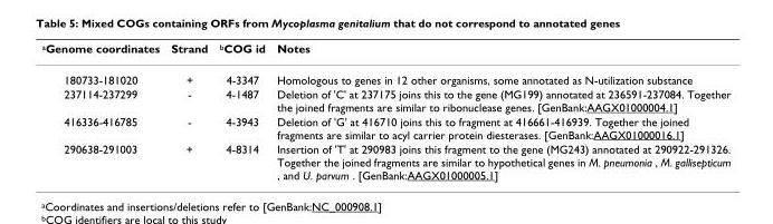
<table><thead><tr><td>aGenome coordinates</td><td>Strand</td><td>bCOG id</td><td>Notes</td></tr></thead><tbody><tr><td>180733-181020</td><td>+</td><td>4-3347</td><td>Homologous to genes in 12 other organisms, some annotated as N-utilization substance</td></tr><tr><td>237114-237299</td><td>-</td><td>4-1487</td><td>Deletion of &#x27;C&#x27; at 237175 joins this to the gene (MG199) annotated at 236591-237084. Together the joined fragments are similar to ribonuclease genes. [GenBank:AAGX01000004.1]</td></tr><tr><td>416336-416785</td><td>-</td><td>4-3943</td><td>Deletion of &#x27;G&#x27; at 416710 joins this to fragment at 416661-416939. Together the joined fragments are similar to acyl carrier protein diesterases. [GenBank:AAGX01000016.1]</td></tr><tr><td>290638-291003</td><td>+</td><td>4-8314</td><td>Insertion of &#x27;T&#x27; at 290983 joins this fragment to the gene (MG243) annotated at 290922-291326. Together the joined fragments are similar to hypothetical genes in M. pneumonia , M. gallisepticum , and U. parvum . [GenBank:AAGX01000005.1]</td></tr></tbody></table>